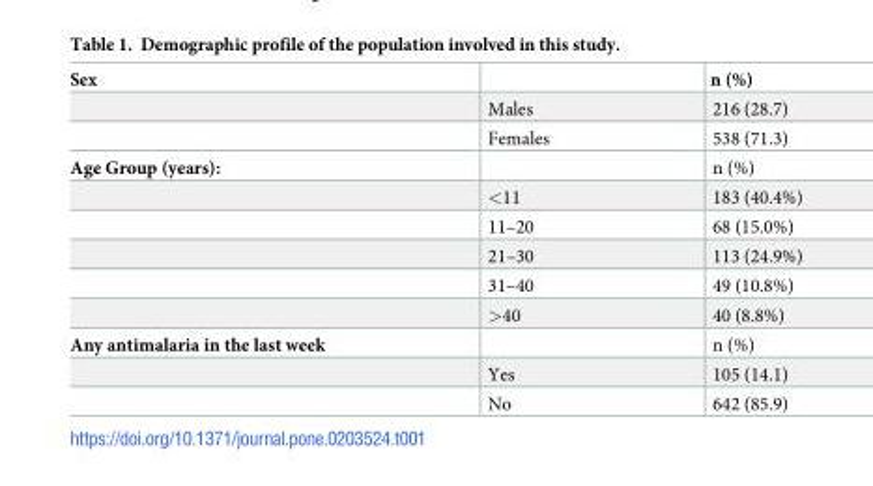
<table><thead><tr><td>Sex</td><td></td><td>n (%)</td></tr></thead><tbody><tr><td></td><td>Males</td><td>216 (28.7)</td></tr><tr><td></td><td>Females</td><td>538 (71.3)</td></tr><tr><td rowspan="6">Age Group (years):</td><td></td><td>n (%)</td></tr><tr><td>&lt;11</td><td>183 (40.4%)</td></tr><tr><td>11–20</td><td>68 (15.0%)</td></tr><tr><td>21–30</td><td>113 (24.9%)</td></tr><tr><td>31–40</td><td>49 (10.8%)</td></tr><tr><td>&gt;40</td><td>40 (8.8%)</td></tr><tr><td rowspan="3">Any antimalaria in the last week</td><td></td><td>n (%)</td></tr><tr><td>Yes</td><td>105 (14.1)</td></tr><tr><td>No</td><td>642 (85.9)</td></tr></tbody></table>